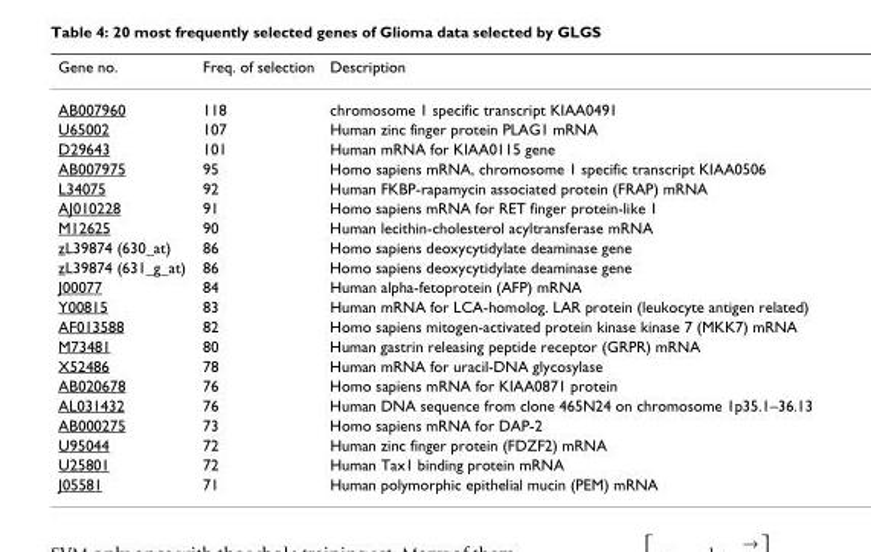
<table><thead><tr><td>Gene no.</td><td>Freq. of selection</td><td>Description</td></tr></thead><tbody><tr><td>AB007960</td><td>118</td><td>chromosome 1 specific transcript KIAA0491</td></tr><tr><td>U65002</td><td>107</td><td>Human zinc finger protein PLAG1 mRNA</td></tr><tr><td>D29643</td><td>101</td><td>Human mRNA for KIAA0115 gene</td></tr><tr><td>AB007975</td><td>95</td><td>Homo sapiens mRNA, chromosome 1 specific transcript KIAA0506</td></tr><tr><td>L34075</td><td>92</td><td>Human FKBP-rapamycin associated protein (FRAP) mRNA</td></tr><tr><td>AJ010228</td><td>91</td><td>Homo sapiens mRNA for RET finger protein-like 1</td></tr><tr><td>M12625</td><td>90</td><td>Human lecithin-cholesterol acyltransferase mRNA</td></tr><tr><td>zL39874 (630_at)</td><td>86</td><td>Homo sapiens deoxycytidylate deaminase gene</td></tr><tr><td>zL39874 (631_g_at)</td><td>86</td><td>Homo sapiens deoxycytidylate deaminase gene</td></tr><tr><td>J00077</td><td>84</td><td>Human alpha-fetoprotein (AFP) mRNA</td></tr><tr><td>Y00815</td><td>83</td><td>Human mRNA for LCA-homolog. LAR protein (leukocyte antigen related)</td></tr><tr><td>AF013588</td><td>82</td><td>Homo sapiens mitogen-activated protein kinase kinase 7 (MKK7) mRNA</td></tr><tr><td>M73481</td><td>80</td><td>Human gastrin releasing peptide receptor (GRPR) mRNA</td></tr><tr><td>X52486</td><td>78</td><td>Human mRNA for uracil-DNA glycosylase</td></tr><tr><td>AB020678</td><td>76</td><td>Homo sapiens mRNA for KIAA0871 protein</td></tr><tr><td>AL031432</td><td>76</td><td>Human DNA sequence from clone 465N24 on chromosome 1p35.1–36.13</td></tr><tr><td>AB000275</td><td>73</td><td>Homo sapiens mRNA for DAP-2</td></tr><tr><td>U95044</td><td>72</td><td>Human zinc finger protein (FDZF2) mRNA</td></tr><tr><td>U25801</td><td>72</td><td>Human Tax1 binding protein mRNA</td></tr><tr><td>J05581</td><td>71</td><td>Human polymorphic epithelial mucin (PEM) mRNA</td></tr></tbody></table>